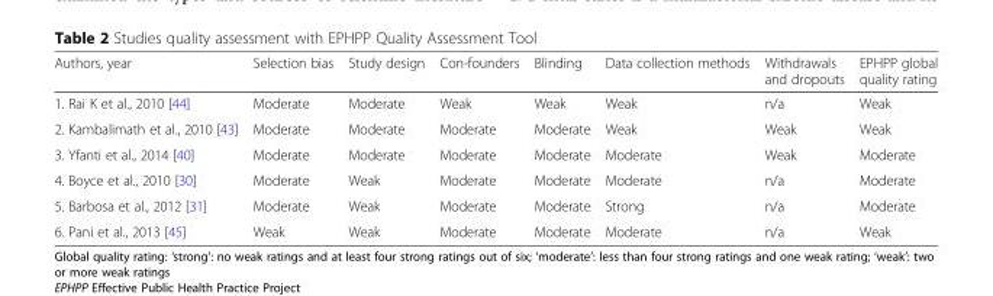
<table><thead><tr><td>Authors, year</td><td>Selection bias</td><td>Study design</td><td>Con-founders</td><td>Blinding</td><td>Data collection methods</td><td>Withdrawals and dropouts</td><td>EPHPP global quality rating</td></tr></thead><tbody><tr><td>1. Rai K et al., 2010 [44]</td><td>Moderate</td><td>Moderate</td><td>Weak</td><td>Weak</td><td>Weak</td><td>n/a</td><td>Weak</td></tr><tr><td>2. Kambalimath et al., 2010 [43]</td><td>Moderate</td><td>Moderate</td><td>Moderate</td><td>Moderate</td><td>Weak</td><td>Weak</td><td>Weak</td></tr><tr><td>3. Yfanti et al., 2014 [40]</td><td>Moderate</td><td>Moderate</td><td>Moderate</td><td>Moderate</td><td>Moderate</td><td>Weak</td><td>Moderate</td></tr><tr><td>4. Boyce et al., 2010 [30]</td><td>Moderate</td><td>Weak</td><td>Moderate</td><td>Moderate</td><td>Moderate</td><td>n/a</td><td>Moderate</td></tr><tr><td>5. Barbosa et al., 2012 [31]</td><td>Moderate</td><td>Weak</td><td>Moderate</td><td>Moderate</td><td>Strong</td><td>n/a</td><td>Moderate</td></tr><tr><td>6. Pani et al., 2013 [45]</td><td>Weak</td><td>Weak</td><td>Moderate</td><td>Moderate</td><td>Moderate</td><td>n/a</td><td>Weak</td></tr></tbody></table>